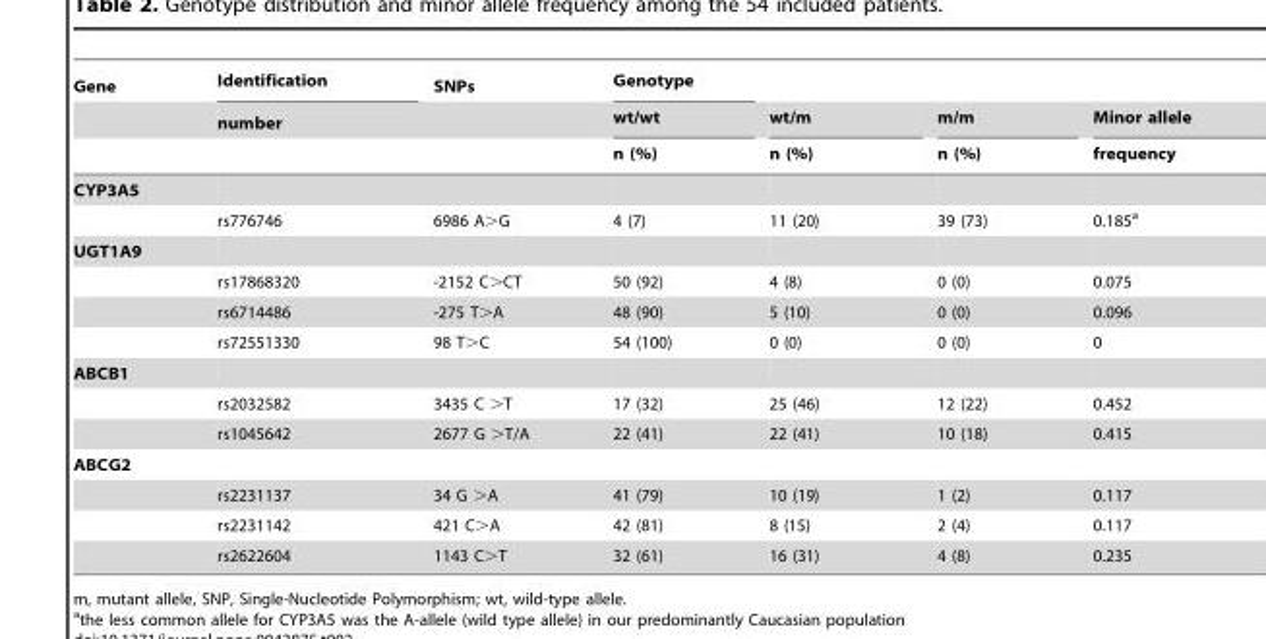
<table><thead><tr><td rowspan="3">Gene</td><td rowspan="3">Identification number</td><td rowspan="3">SNPs</td><td rowspan="3">Genotype wt/wt n (%)</td><td rowspan="3">wt/m n (%)</td><td rowspan="3">m/m n (%)</td><td rowspan="3">Minor allele frequency</td></tr><tr></tr><tr></tr></thead><tbody><tr><td colspan="7">CYP3A5</td></tr><tr><td></td><td>rs776746</td><td>6986 A&gt;G</td><td>4 (7)</td><td>11 (20)</td><td>39 (73)</td><td>0.185<sup>a</sup></td></tr><tr><td colspan="7">UGT1A9</td></tr><tr><td></td><td>rs17868320</td><td>-2152 C&gt;CT</td><td>50 (92)</td><td>4 (8)</td><td>0 (0)</td><td>0.075</td></tr><tr><td></td><td>rs6714486</td><td>-275 T&gt;A</td><td>48 (90)</td><td>5 (10)</td><td>0 (0)</td><td>0.096</td></tr><tr><td></td><td>rs72551330</td><td>98 T&gt;C</td><td>54 (100)</td><td>0 (0)</td><td>0 (0)</td><td>0</td></tr><tr><td colspan="7">ABCB1</td></tr><tr><td></td><td>rs2032582</td><td>3435 C &gt;T</td><td>17 (32)</td><td>25 (46)</td><td>12 (22)</td><td>0.452</td></tr><tr><td></td><td>rs1045642</td><td>2677 G &gt;T/A</td><td>22 (41)</td><td>22 (41)</td><td>10 (18)</td><td>0.415</td></tr><tr><td colspan="7">ABCG2</td></tr><tr><td></td><td>rs2231137</td><td>34 G &gt;A</td><td>41 (79)</td><td>10 (19)</td><td>1 (2)</td><td>0.117</td></tr><tr><td></td><td>rs2231142</td><td>421 C&gt;A</td><td>42 (81)</td><td>8 (15)</td><td>2 (4)</td><td>0.117</td></tr><tr><td></td><td>rs2622604</td><td>1143 C&gt;T</td><td>32 (61)</td><td>16 (31)</td><td>4 (8)</td><td>0.235</td></tr></tbody></table>